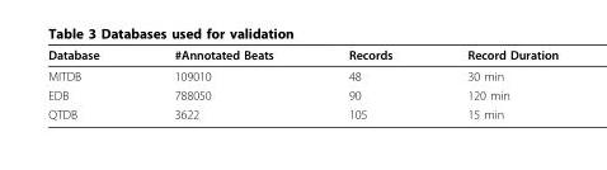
<table><thead><tr><td>Database</td><td>#Annotated Beats</td><td>Records</td><td>Record Duration</td></tr></thead><tbody><tr><td>MITDB</td><td>109010</td><td>48</td><td>30 min</td></tr><tr><td>EDB</td><td>788050</td><td>90</td><td>120 min</td></tr><tr><td>QTDB</td><td>3622</td><td>105</td><td>15 min</td></tr></tbody></table>